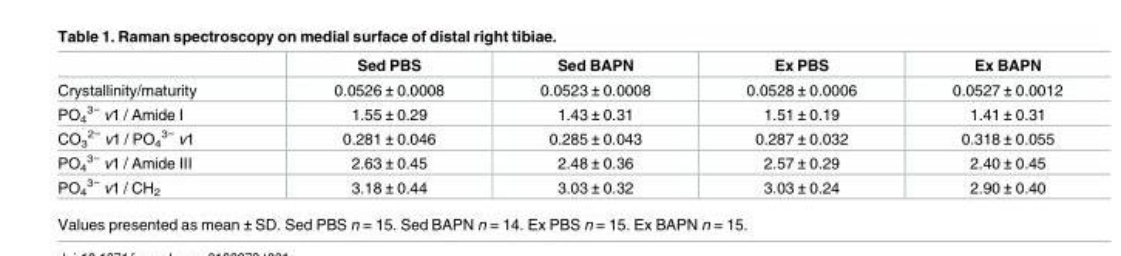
<table><thead><tr><td></td><td>Sed PBS</td><td>Sed BAPN</td><td>Ex PBS</td><td>Ex BAPN</td></tr></thead><tbody><tr><td>Crystallinity/maturity</td><td>0.0526 ± 0.0008</td><td>0.0523 ± 0.0008</td><td>0.0528 ± 0.0006</td><td>0.0527 ± 0.0012</td></tr><tr><td>PO<sub>4</sub> <sup>3−</sup> v1 / Amide I</td><td>1.55 ± 0.29</td><td>1.43 ± 0.31</td><td>1.51 ± 0.19</td><td>1.41 ± 0.31</td></tr><tr><td>CO<sub>3</sub> <sup>2−</sup> v1 / PO<sub>4</sub> <sup>3−</sup> v1</td><td>0.281 ± 0.046</td><td>0.285 ± 0.043</td><td>0.287 ± 0.032</td><td>0.318 ± 0.055</td></tr><tr><td>PO<sub>4</sub> <sup>3−</sup> v1 / Amide III</td><td>2.63 ± 0.45</td><td>2.48 ± 0.36</td><td>2.57 ± 0.29</td><td>2.40 ± 0.45</td></tr><tr><td>PO<sub>4</sub> <sup>3−</sup> v1 / CH<sub>2</sub></td><td>3.18 ± 0.44</td><td>3.03 ± 0.32</td><td>3.03 ± 0.24</td><td>2.90 ± 0.40</td></tr></tbody></table>